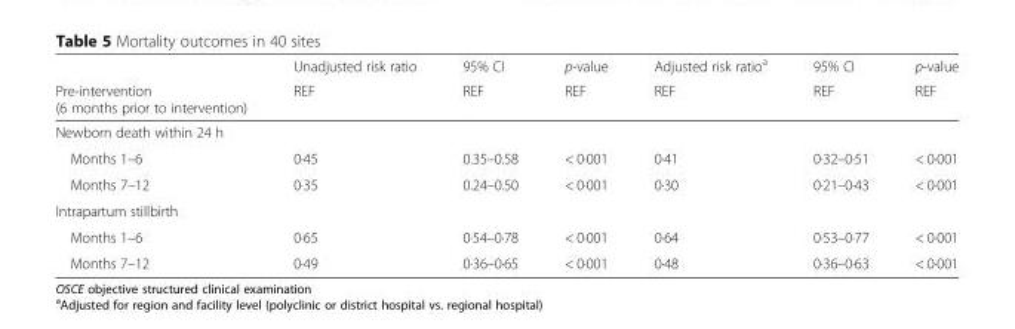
<table><thead><tr><td rowspan="2">Pre-intervention (6 months prior to intervention)</td><td rowspan="2">Unadjusted risk ratio REF</td><td rowspan="2">95% CI REF</td><td rowspan="2">p-value REF</td><td rowspan="2">Adjusted risk ratio<sup>a</sup> REF</td><td rowspan="2">95% CI REF</td><td rowspan="2">p-value REF</td></tr><tr></tr></thead><tbody><tr><td colspan="7">Newborn death within 24 h</td></tr><tr><td>Months 1–6</td><td>0·45</td><td>0.35–0.58</td><td>&lt; 0·001</td><td>0·41</td><td>0·32–0·51</td><td>&lt; 0·001</td></tr><tr><td>Months 7–12</td><td>0·35</td><td>0.24–0.50</td><td>&lt; 0·001</td><td>0·30</td><td>0·21–0·43</td><td>&lt; 0·001</td></tr><tr><td colspan="7">Intrapartum stillbirth</td></tr><tr><td>Months 1–6</td><td>0·65</td><td>0·54–0·78</td><td>&lt; 0·001</td><td>0·64</td><td>0·53–0·77</td><td>&lt; 0·001</td></tr><tr><td>Months 7–12</td><td>0·49</td><td>0·36–0·65</td><td>&lt; 0·001</td><td>0·48</td><td>0·36–0·63</td><td>&lt; 0·001</td></tr></tbody></table>